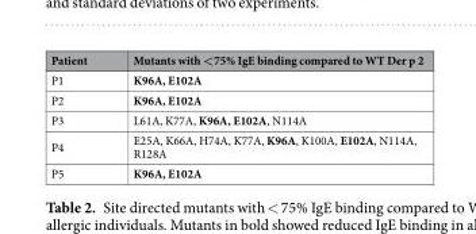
<table><thead><tr><td>Patient</td><td>Mutants with &lt;75% IgE binding compared to WT Der p 2</td></tr></thead><tbody><tr><td>P1</td><td>K96A, E102A</td></tr><tr><td>P2</td><td>K96A, E102A</td></tr><tr><td>P3</td><td>L61A, K77A, K96A, E102A, N114A</td></tr><tr><td>P4</td><td>E25A, K66A, H74A, K77A, K96A, K100A, E102A, N114A, R128A</td></tr><tr><td>P5</td><td>K96A, E102A</td></tr></tbody></table>